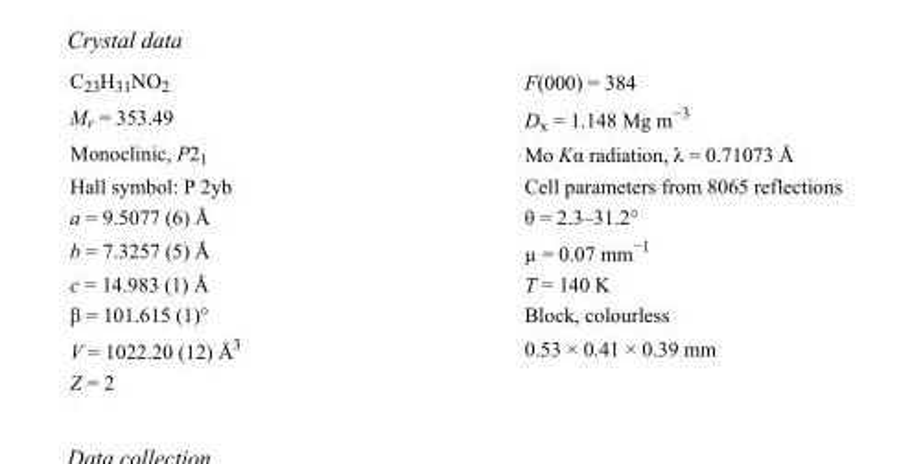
<table><tbody><tr><td>C<sub>23</sub>H<sub>31</sub>NO<sub>2</sub></td><td>F(000) = 384</td></tr><tr><td>M<sub>r</sub> = 353.49</td><td>D<sub>x</sub> = 1.148 Mg m<sup>−3</sup></td></tr><tr><td>Monoclinic, P2<sub>1</sub></td><td>Mo Kα radiation, λ = 0.71073 Å</td></tr><tr><td>Hall symbol: P 2yb</td><td>Cell parameters from 8065 reflections</td></tr><tr><td>a = 9.5077 (6) Å</td><td>θ = 2.3–31.2°</td></tr><tr><td>b = 7.3257 (5) Å</td><td>µ = 0.07 mm<sup>−1</sup></td></tr><tr><td>c = 14.983 (1) Å</td><td>T = 140 K</td></tr><tr><td>β = 101.615 (1)°</td><td>Block, colourless</td></tr><tr><td>V = 1022.20 (12) Å<sup>3</sup></td><td>0.53 × 0.41 × 0.39 mm</td></tr><tr><td>Z = 2</td><td></td></tr></tbody></table>